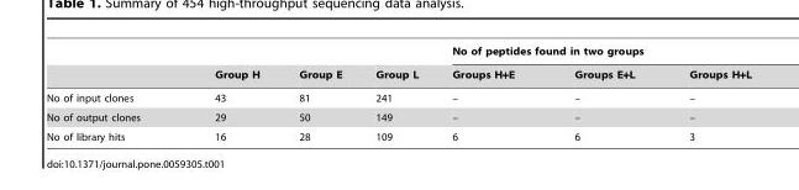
<table><thead><tr><td rowspan="2"></td><td rowspan="2">Group H</td><td rowspan="2">Group E</td><td rowspan="2">Group L</td><td colspan="3">No of peptides found in two groups</td></tr><tr><td>Groups H+E</td><td>Groups E+L</td><td>Groups H+L</td></tr></thead><tbody><tr><td>No of input clones</td><td>43</td><td>81</td><td>241</td><td>–</td><td>–</td><td>–</td></tr><tr><td>No of output clones</td><td>29</td><td>50</td><td>149</td><td>–</td><td>–</td><td>–</td></tr><tr><td>No of library hits</td><td>16</td><td>28</td><td>109</td><td>6</td><td>6</td><td>3</td></tr></tbody></table>